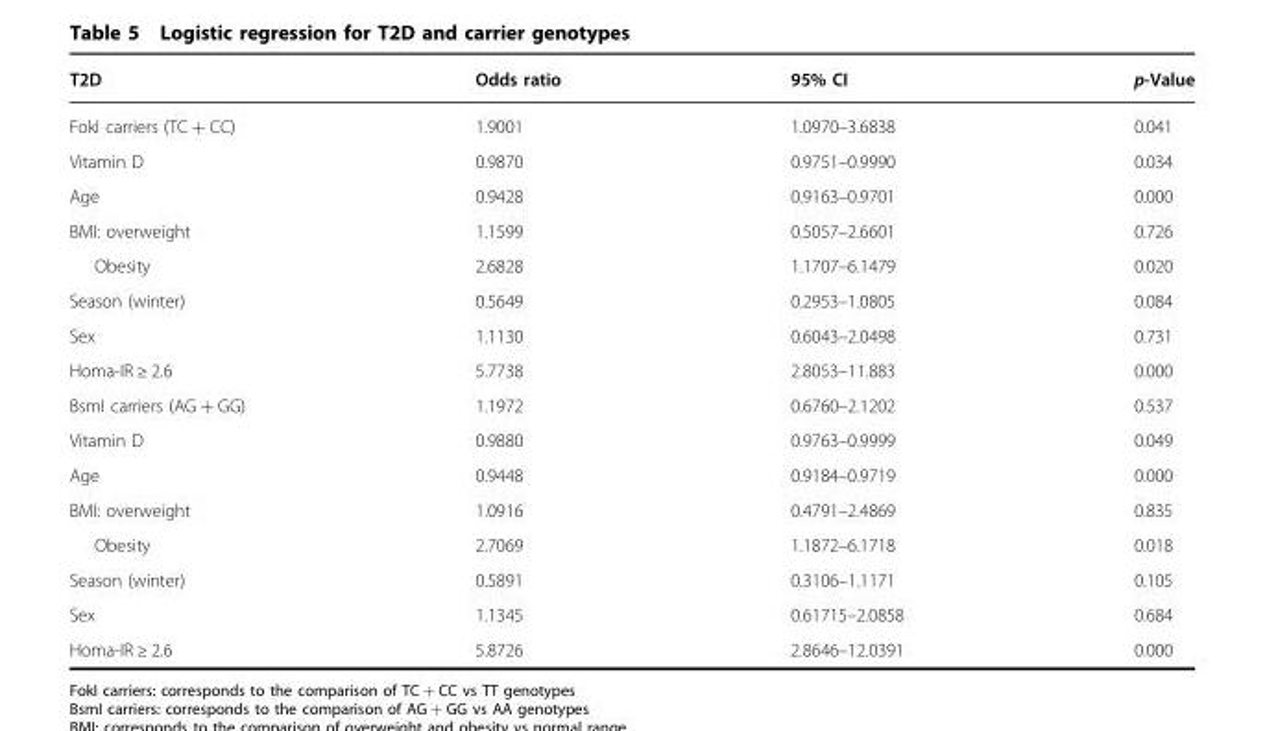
<table><thead><tr><td>T2D</td><td>Odds ratio</td><td>95% CI</td><td>p-Value</td></tr></thead><tbody><tr><td>FokI carriers (TC + CC)</td><td>1.9001</td><td>1.0970–3.6838</td><td>0.041</td></tr><tr><td>Vitamin D</td><td>0.9870</td><td>0.9751–0.9990</td><td>0.034</td></tr><tr><td>Age</td><td>0.9428</td><td>0.9163–0.9701</td><td>0.000</td></tr><tr><td>BMI: overweight</td><td>1.1599</td><td>0.5057–2.6601</td><td>0.726</td></tr><tr><td>Obesity</td><td>2.6828</td><td>1.1707–6.1479</td><td>0.020</td></tr><tr><td>Season (winter)</td><td>0.5649</td><td>0.2953–1.0805</td><td>0.084</td></tr><tr><td>Sex</td><td>1.1130</td><td>0.6043–2.0498</td><td>0.731</td></tr><tr><td>Homa-IR ≥ 2.6</td><td>5.7738</td><td>2.8053–11.883</td><td>0.000</td></tr><tr><td>BsmI carriers (AG + GG)</td><td>1.1972</td><td>0.6760–2.1202</td><td>0.537</td></tr><tr><td>Vitamin D</td><td>0.9880</td><td>0.9763–0.9999</td><td>0.049</td></tr><tr><td>Age</td><td>0.9448</td><td>0.9184–0.9719</td><td>0.000</td></tr><tr><td>BMI: overweight</td><td>1.0916</td><td>0.4791–2.4869</td><td>0.835</td></tr><tr><td>Obesity</td><td>2.7069</td><td>1.1872–6.1718</td><td>0.018</td></tr><tr><td>Season (winter)</td><td>0.5891</td><td>0.3106–1.1171</td><td>0.105</td></tr><tr><td>Sex</td><td>1.1345</td><td>0.61715–2.0858</td><td>0.684</td></tr><tr><td>Homa-IR ≥ 2.6</td><td>5.8726</td><td>2.8646–12.0391</td><td>0.000</td></tr></tbody></table>